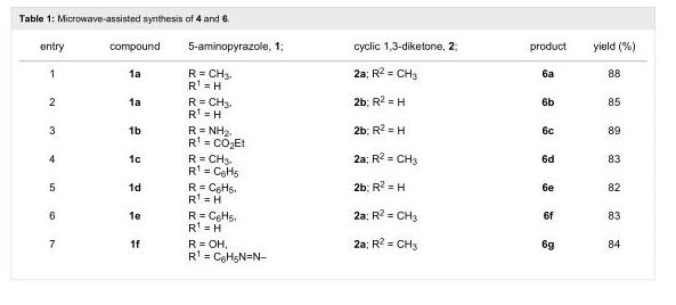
<table><tbody><tr><td>entry</td><td>compound</td><td>5-aminopyrazole, 1;</td><td>cyclic 1,3-diketone, 2;</td><td>product</td><td>yield (%)</td></tr><tr><td>1</td><td>1a</td><td>R = CH<sub>3</sub>, R<sup>1</sup> = H</td><td>2a; R<sup>2</sup> = CH<sub>3</sub></td><td>6a</td><td>88</td></tr><tr><td>2</td><td>1a</td><td>R = CH<sub>3</sub>, R<sup>1</sup> = H</td><td>2b; R<sup>2</sup> = H</td><td>6b</td><td>85</td></tr><tr><td>3</td><td>1b</td><td>R = NH<sub>2</sub>, R<sup>1</sup> = CO<sub>2</sub>Et</td><td>2b; R<sup>2</sup> = H</td><td>6c</td><td>89</td></tr><tr><td>4</td><td>1c</td><td>R = CH<sub>3</sub>, R<sup>1</sup> = C<sub>6</sub>H<sub>5</sub></td><td>2a; R<sup>2</sup> = CH<sub>3</sub></td><td>6d</td><td>83</td></tr><tr><td>5</td><td>1d</td><td>R = C<sub>6</sub>H<sub>5</sub>, R<sup>1</sup> = H</td><td>2b; R<sup>2</sup> = H</td><td>6e</td><td>82</td></tr><tr><td>6</td><td>1e</td><td>R = C<sub>6</sub>H<sub>5</sub>, R<sup>1</sup> = H</td><td>2a; R<sup>2</sup> = CH<sub>3</sub></td><td>6f</td><td>83</td></tr><tr><td>7</td><td>1f</td><td>R = OH, R<sup>1</sup> = C<sub>6</sub>H<sub>5</sub>N=N–</td><td>2a; R<sup>2</sup> = CH<sub>3</sub></td><td>6g</td><td>84</td></tr></tbody></table>